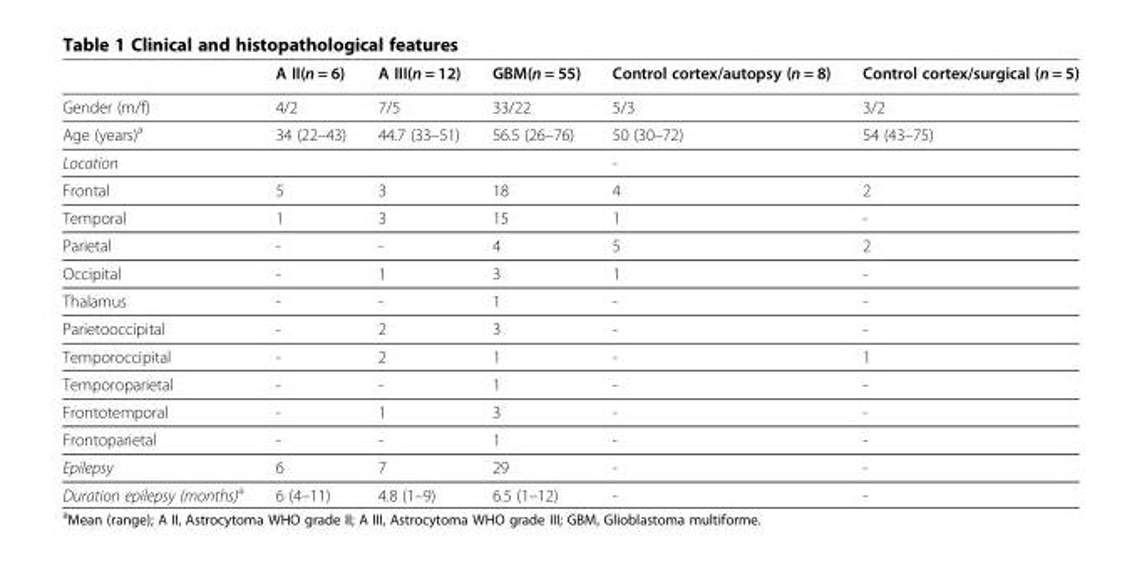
<table><thead><tr><td></td><td>A II(n = 6)</td><td>A III(n = 12)</td><td>GBM(n = 55)</td><td>Control cortex/autopsy (n = 8)</td><td>Control cortex/surgical (n = 5)</td></tr></thead><tbody><tr><td>Gender (m/f)</td><td>4/2</td><td>7/5</td><td>33/22</td><td>5/3</td><td>3/2</td></tr><tr><td>Age (years)<sup>a</sup></td><td>34 (22–43)</td><td>44.7 (33–51)</td><td>56.5 (26–76)</td><td>50 (30–72)</td><td>54 (43–75)</td></tr><tr><td>Location</td><td></td><td></td><td></td><td>-</td><td></td></tr><tr><td>Frontal</td><td>5</td><td>3</td><td>18</td><td>4</td><td>2</td></tr><tr><td>Temporal</td><td>1</td><td>3</td><td>15</td><td>1</td><td>-</td></tr><tr><td>Parietal</td><td>-</td><td>-</td><td>4</td><td>5</td><td>2</td></tr><tr><td>Occipital</td><td>-</td><td>1</td><td>3</td><td>1</td><td>-</td></tr><tr><td>Thalamus</td><td>-</td><td>-</td><td>1</td><td>-</td><td>-</td></tr><tr><td>Parietooccipital</td><td>-</td><td>2</td><td>3</td><td>-</td><td>-</td></tr><tr><td>Temporoccipital</td><td>-</td><td>2</td><td>1</td><td>-</td><td>1</td></tr><tr><td>Temporoparietal</td><td>-</td><td>-</td><td>1</td><td>-</td><td>-</td></tr><tr><td>Frontotemporal</td><td>-</td><td>1</td><td>3</td><td>-</td><td>-</td></tr><tr><td>Frontoparietal</td><td>-</td><td>-</td><td>1</td><td>-</td><td>-</td></tr><tr><td>Epilepsy</td><td>6</td><td>7</td><td>29</td><td>-</td><td>-</td></tr><tr><td>Duration epilepsy (months)<sup>a</sup></td><td>6 (4–11)</td><td>4.8 (1–9)</td><td>6.5 (1–12)</td><td>-</td><td>-</td></tr></tbody></table>